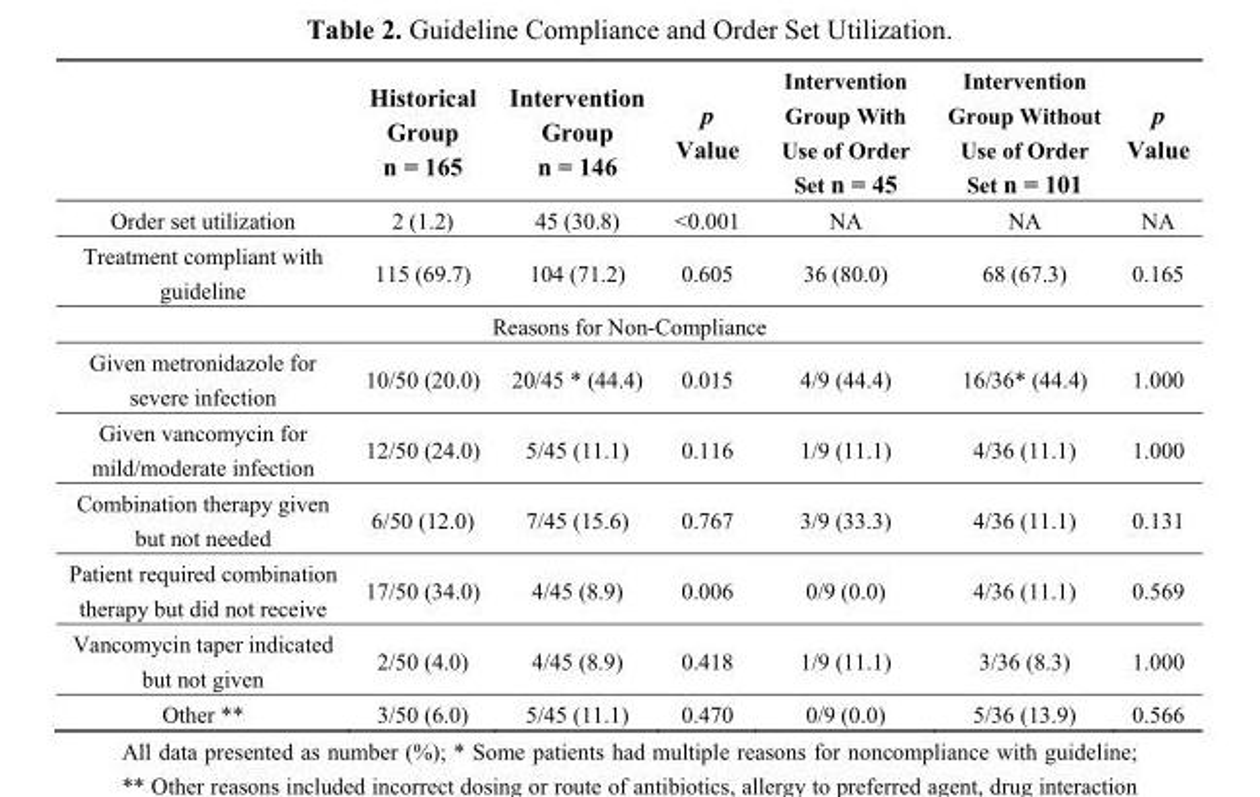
<table><thead><tr><td></td><td>Historical Group n = 165</td><td>Intervention Group n = 146</td><td>p Value</td><td>Intervention Group With Use of Order Set n = 45</td><td>Intervention Group Without Use of Order Set n = 101</td><td>p Value</td></tr></thead><tbody><tr><td>Order set utilization</td><td>2 (1.2)</td><td>45 (30.8)</td><td>&lt;0.001</td><td>NA</td><td>NA</td><td>NA</td></tr><tr><td>Treatment compliant with guideline</td><td>115 (69.7)</td><td>104 (71.2)</td><td>0.605</td><td>36 (80.0)</td><td>68 (67.3)</td><td>0.165</td></tr><tr><td colspan="7">Reasons for Non-Compliance</td></tr><tr><td>Given metronidazole for severe infection</td><td>10/50 (20.0)</td><td>20/45 * (44.4)</td><td>0.015</td><td>4/9 (44.4)</td><td>16/36* (44.4)</td><td>1.000</td></tr><tr><td>Given vancomycin for mild/moderate infection</td><td>12/50 (24.0)</td><td>5/45 (11.1)</td><td>0.116</td><td>1/9 (11.1)</td><td>4/36 (11.1)</td><td>1.000</td></tr><tr><td>Combination therapy given but not needed</td><td>6/50 (12.0)</td><td>7/45 (15.6)</td><td>0.767</td><td>3/9 (33.3)</td><td>4/36 (11.1)</td><td>0.131</td></tr><tr><td>Patient required combination therapy but did not receive</td><td>17/50 (34.0)</td><td>4/45 (8.9)</td><td>0.006</td><td>0/9 (0.0)</td><td>4/36 (11.1)</td><td>0.569</td></tr><tr><td>Vancomycin taper indicated but not given</td><td>2/50 (4.0)</td><td>4/45 (8.9)</td><td>0.418</td><td>1/9 (11.1)</td><td>3/36 (8.3)</td><td>1.000</td></tr><tr><td>Other **</td><td>3/50 (6.0)</td><td>5/45 (11.1)</td><td>0.470</td><td>0/9 (0.0)</td><td>5/36 (13.9)</td><td>0.566</td></tr></tbody></table>